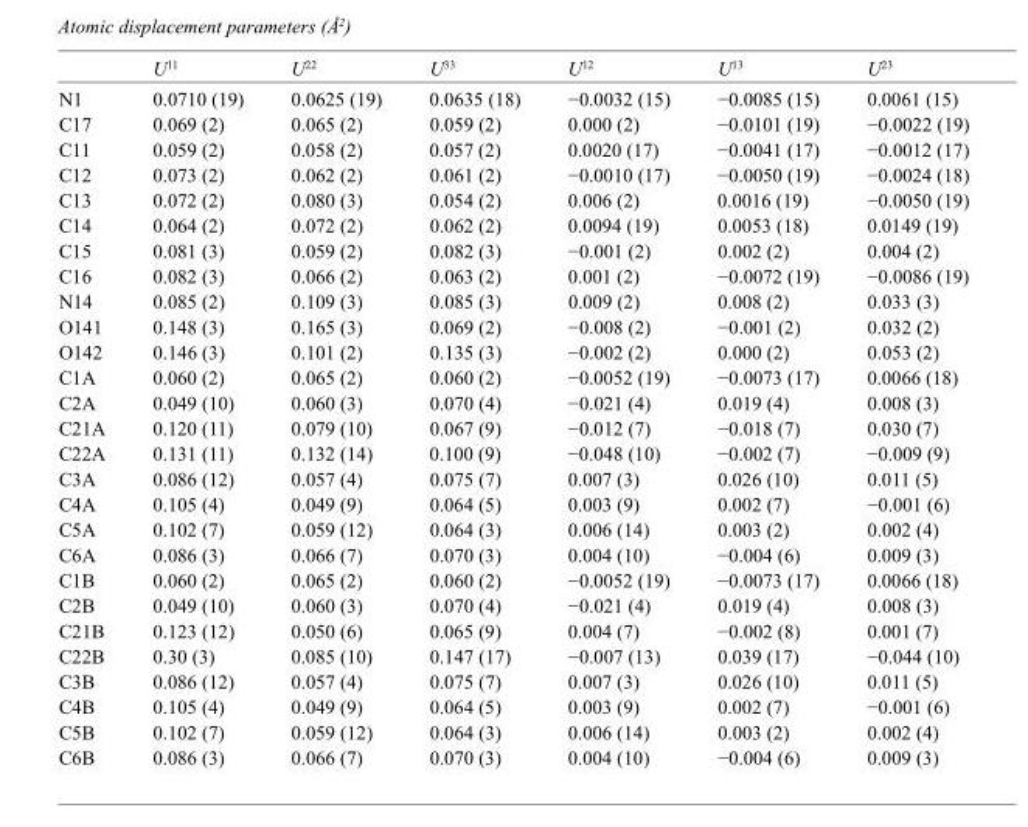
<table><thead><tr><td></td><td>U<sup>11</sup></td><td>U<sup>22</sup></td><td>U<sup>33</sup></td><td>U<sup>12</sup></td><td>U<sup>13</sup></td><td>U<sup>23</sup></td></tr></thead><tbody><tr><td>N1</td><td>0.0710 (19)</td><td>0.0625 (19)</td><td>0.0635 (18)</td><td>−0.0032 (15)</td><td>−0.0085 (15)</td><td>0.0061 (15)</td></tr><tr><td>C17</td><td>0.069 (2)</td><td>0.065 (2)</td><td>0.059 (2)</td><td>0.000 (2)</td><td>−0.0101 (19)</td><td>−0.0022 (19)</td></tr><tr><td>C11</td><td>0.059 (2)</td><td>0.058 (2)</td><td>0.057 (2)</td><td>0.0020 (17)</td><td>−0.0041 (17)</td><td>−0.0012 (17)</td></tr><tr><td>C12</td><td>0.073 (2)</td><td>0.062 (2)</td><td>0.061 (2)</td><td>−0.0010 (17)</td><td>−0.0050 (19)</td><td>−0.0024 (18)</td></tr><tr><td>C13</td><td>0.072 (2)</td><td>0.080 (3)</td><td>0.054 (2)</td><td>0.006 (2)</td><td>0.0016 (19)</td><td>−0.0050 (19)</td></tr><tr><td>C14</td><td>0.064 (2)</td><td>0.072 (2)</td><td>0.062 (2)</td><td>0.0094 (19)</td><td>0.0053 (18)</td><td>0.0149 (19)</td></tr><tr><td>C15</td><td>0.081 (3)</td><td>0.059 (2)</td><td>0.082 (3)</td><td>−0.001 (2)</td><td>0.002 (2)</td><td>0.004 (2)</td></tr><tr><td>C16</td><td>0.082 (3)</td><td>0.066 (2)</td><td>0.063 (2)</td><td>0.001 (2)</td><td>−0.0072 (19)</td><td>−0.0086 (19)</td></tr><tr><td>N14</td><td>0.085 (2)</td><td>0.109 (3)</td><td>0.085 (3)</td><td>0.009 (2)</td><td>0.008 (2)</td><td>0.033 (3)</td></tr><tr><td>O141</td><td>0.148 (3)</td><td>0.165 (3)</td><td>0.069 (2)</td><td>−0.008 (2)</td><td>−0.001 (2)</td><td>0.032 (2)</td></tr><tr><td>O142</td><td>0.146 (3)</td><td>0.101 (2)</td><td>0.135 (3)</td><td>−0.002 (2)</td><td>0.000 (2)</td><td>0.053 (2)</td></tr><tr><td>C1A</td><td>0.060 (2)</td><td>0.065 (2)</td><td>0.060 (2)</td><td>−0.0052 (19)</td><td>−0.0073 (17)</td><td>0.0066 (18)</td></tr><tr><td>C2A</td><td>0.049 (10)</td><td>0.060 (3)</td><td>0.070 (4)</td><td>−0.021 (4)</td><td>0.019 (4)</td><td>0.008 (3)</td></tr><tr><td>C21A</td><td>0.120 (11)</td><td>0.079 (10)</td><td>0.067 (9)</td><td>−0.012 (7)</td><td>−0.018 (7)</td><td>0.030 (7)</td></tr><tr><td>C22A</td><td>0.131 (11)</td><td>0.132 (14)</td><td>0.100 (9)</td><td>−0.048 (10)</td><td>−0.002 (7)</td><td>−0.009 (9)</td></tr><tr><td>C3A</td><td>0.086 (12)</td><td>0.057 (4)</td><td>0.075 (7)</td><td>0.007 (3)</td><td>0.026 (10)</td><td>0.011 (5)</td></tr><tr><td>C4A</td><td>0.105 (4)</td><td>0.049 (9)</td><td>0.064 (5)</td><td>0.003 (9)</td><td>0.002 (7)</td><td>−0.001 (6)</td></tr><tr><td>C5A</td><td>0.102 (7)</td><td>0.059 (12)</td><td>0.064 (3)</td><td>0.006 (14)</td><td>0.003 (2)</td><td>0.002 (4)</td></tr><tr><td>C6A</td><td>0.086 (3)</td><td>0.066 (7)</td><td>0.070 (3)</td><td>0.004 (10)</td><td>−0.004 (6)</td><td>0.009 (3)</td></tr><tr><td>C1B</td><td>0.060 (2)</td><td>0.065 (2)</td><td>0.060 (2)</td><td>−0.0052 (19)</td><td>−0.0073 (17)</td><td>0.0066 (18)</td></tr><tr><td>C2B</td><td>0.049 (10)</td><td>0.060 (3)</td><td>0.070 (4)</td><td>−0.021 (4)</td><td>0.019 (4)</td><td>0.008 (3)</td></tr><tr><td>C21B</td><td>0.123 (12)</td><td>0.050 (6)</td><td>0.065 (9)</td><td>0.004 (7)</td><td>−0.002 (8)</td><td>0.001 (7)</td></tr><tr><td>C22B</td><td>0.30 (3)</td><td>0.085 (10)</td><td>0.147 (17)</td><td>−0.007 (13)</td><td>0.039 (17)</td><td>−0.044 (10)</td></tr><tr><td>C3B</td><td>0.086 (12)</td><td>0.057 (4)</td><td>0.075 (7)</td><td>0.007 (3)</td><td>0.026 (10)</td><td>0.011 (5)</td></tr><tr><td>C4B</td><td>0.105 (4)</td><td>0.049 (9)</td><td>0.064 (5)</td><td>0.003 (9)</td><td>0.002 (7)</td><td>−0.001 (6)</td></tr><tr><td>C5B</td><td>0.102 (7)</td><td>0.059 (12)</td><td>0.064 (3)</td><td>0.006 (14)</td><td>0.003 (2)</td><td>0.002 (4)</td></tr><tr><td>C6B</td><td>0.086 (3)</td><td>0.066 (7)</td><td>0.070 (3)</td><td>0.004 (10)</td><td>−0.004 (6)</td><td>0.009 (3)</td></tr></tbody></table>